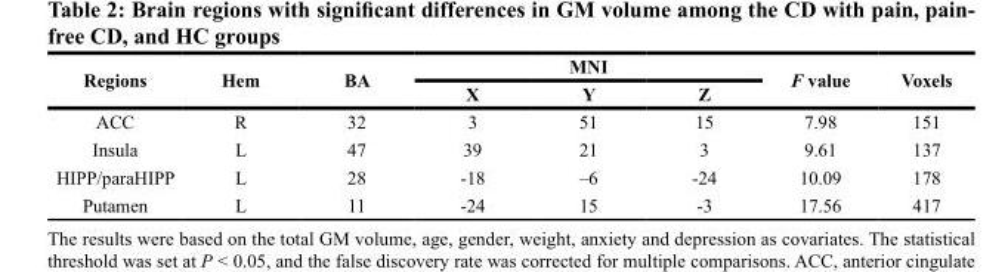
<table><thead><tr><td rowspan="2">Regions</td><td rowspan="2">Hem</td><td rowspan="2">BA</td><td colspan="3">MNI</td><td rowspan="2">F value</td><td rowspan="2">Voxels</td></tr><tr><td>X</td><td>Y</td><td>Z</td></tr></thead><tbody><tr><td>ACC</td><td>R</td><td>32</td><td>3</td><td>51</td><td>15</td><td>7.98</td><td>151</td></tr><tr><td>Insula</td><td>L</td><td>47</td><td>39</td><td>21</td><td>3</td><td>9.61</td><td>137</td></tr><tr><td>HIPP/paraHIPP</td><td>L</td><td>28</td><td>-18</td><td>–6</td><td>-24</td><td>10.09</td><td>178</td></tr><tr><td>Putamen</td><td>L</td><td>11</td><td>-24</td><td>15</td><td>-3</td><td>17.56</td><td>417</td></tr></tbody></table>